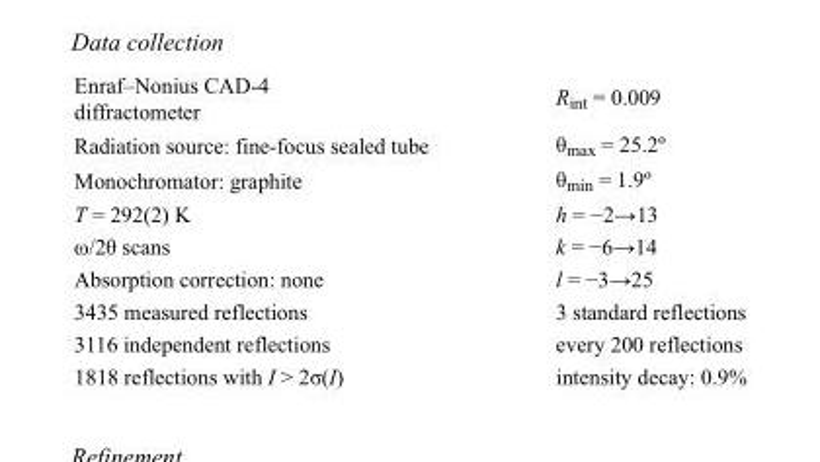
<table><tbody><tr><td>Enraf–Nonius CAD-4 diffractometer</td><td>R<sub>int</sub> = 0.009</td></tr><tr><td>Radiation source: fine-focus sealed tube</td><td>θ<sub>max</sub> = 25.2º</td></tr><tr><td>Monochromator: graphite</td><td>θ<sub>min</sub> = 1.9º</td></tr><tr><td>T = 292(2) K</td><td>h = −2→13</td></tr><tr><td>ω/2θ scans</td><td>k = −6→14</td></tr><tr><td>Absorption correction: none</td><td>l = −3→25</td></tr><tr><td>3435 measured reflections</td><td>3 standard reflections</td></tr><tr><td>3116 independent reflections</td><td>every 200 reflections</td></tr><tr><td>1818 reflections with I &gt; 2σ(I)</td><td>intensity decay: 0.9%</td></tr></tbody></table>